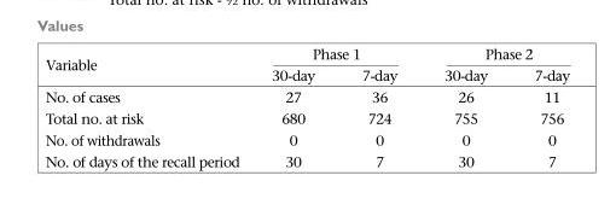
<table><thead><tr><td rowspan="2">Variable</td><td colspan="2">Phase 1</td><td colspan="2">Phase 2</td></tr><tr><td>30-day</td><td>7-day</td><td>30-day</td><td>7-day</td></tr></thead><tbody><tr><td>No. of cases</td><td>27</td><td>36</td><td>26</td><td>11</td></tr><tr><td>Total no. at risk</td><td>680</td><td>724</td><td>755</td><td>756</td></tr><tr><td>No. of withdrawals</td><td>0</td><td>0</td><td>0</td><td>0</td></tr><tr><td>No. of days of the recall period</td><td>30</td><td>7</td><td>30</td><td>7</td></tr></tbody></table>